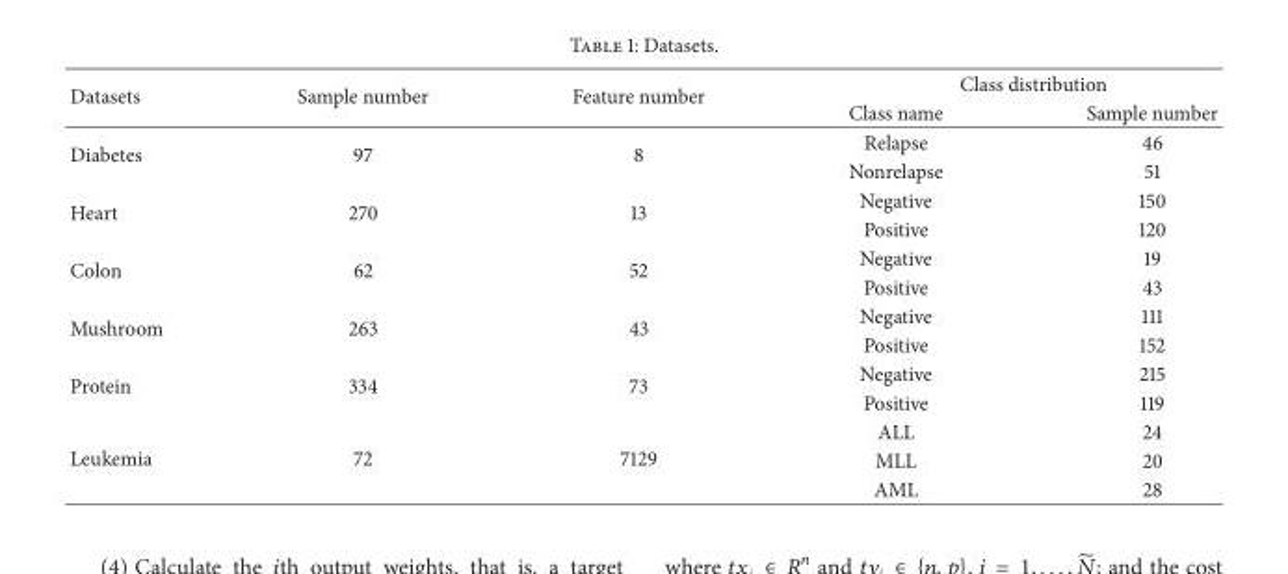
<table><thead><tr><td rowspan="2">Datasets</td><td rowspan="2">Sample number</td><td rowspan="2">Feature number</td><td colspan="2">Class distribution</td></tr><tr><td>Class name</td><td>Sample number</td></tr></thead><tbody><tr><td rowspan="2">Diabetes</td><td rowspan="2">97</td><td rowspan="2">8</td><td>Relapse</td><td>46</td></tr><tr><td>Nonrelapse</td><td>51</td></tr><tr><td rowspan="2">Heart</td><td rowspan="2">270</td><td rowspan="2">13</td><td>Negative</td><td>150</td></tr><tr><td>Positive</td><td>120</td></tr><tr><td rowspan="2">Colon</td><td rowspan="2">62</td><td rowspan="2">52</td><td>Negative</td><td>19</td></tr><tr><td>Positive</td><td>43</td></tr><tr><td rowspan="2">Mushroom</td><td rowspan="2">263</td><td rowspan="2">43</td><td>Negative</td><td>111</td></tr><tr><td>Positive</td><td>152</td></tr><tr><td rowspan="2">Protein</td><td rowspan="2">334</td><td rowspan="2">73</td><td>Negative</td><td>215</td></tr><tr><td>Positive</td><td>119</td></tr><tr><td rowspan="3">Leukemia</td><td rowspan="3">72</td><td rowspan="3">7129</td><td>ALL</td><td>24</td></tr><tr><td>MLL</td><td>20</td></tr><tr><td>AML</td><td>28</td></tr></tbody></table>